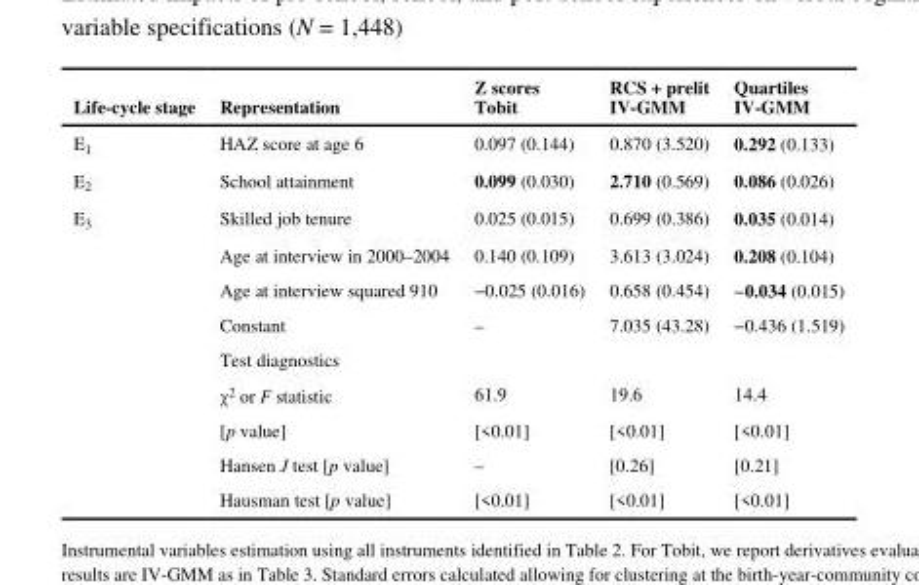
<table><thead><tr><td>Life-cycle stage</td><td>Representation</td><td>Z scores Tobit</td><td>RCS + prelit IV-GMM</td><td>Quartiles IV-GMM</td></tr></thead><tbody><tr><td>E<sub>1</sub></td><td>HAZ score at age 6</td><td>0.097 (0.144)</td><td>0.870 (3.520)</td><td>0.292 (0.133)</td></tr><tr><td>E<sub>2</sub></td><td>School attainment</td><td>0.099 (0.030)</td><td>2.710 (0.569)</td><td>0.086 (0.026)</td></tr><tr><td rowspan="9">E<sub>3</sub></td><td>Skilled job tenure</td><td>0.025 (0.015)</td><td>0.699 (0.386)</td><td>0.035 (0.014)</td></tr><tr><td>Age at interview in 2000–2004</td><td>0.140 (0.109)</td><td>3.613 (3.024)</td><td>0.208 (0.104)</td></tr><tr><td>Age at interview squared 910</td><td>−0.025 (0.016)</td><td>0.658 (0.454)</td><td>−0.034 (0.015)</td></tr><tr><td>Constant</td><td>–</td><td>7.035 (43.28)</td><td>−0.436 (1.519)</td></tr><tr><td>Test diagnostics</td><td></td><td></td><td></td></tr><tr><td>χ<sup>2</sup> or F statistic</td><td>61.9</td><td>19.6</td><td>14.4</td></tr><tr><td>[p value]</td><td>[&lt;0.01]</td><td>[&lt;0.01]</td><td>[&lt;0.01]</td></tr><tr><td>Hansen J test [p value]</td><td>–</td><td>[0.26]</td><td>[0.21]</td></tr><tr><td>Hausman test [p value]</td><td>[&lt;0.01]</td><td>[&lt;0.01]</td><td>[&lt;0.01]</td></tr></tbody></table>